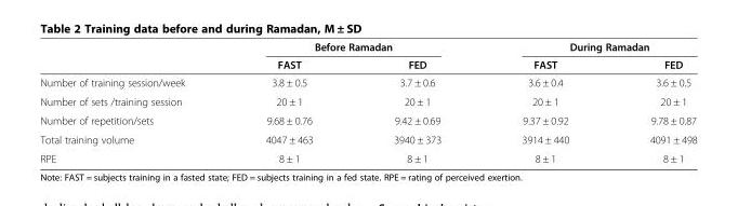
<table><thead><tr><td rowspan="2"></td><td colspan="2">Before Ramadan</td><td colspan="2">During Ramadan</td></tr><tr><td>FAST</td><td>FED</td><td>FAST</td><td>FED</td></tr></thead><tbody><tr><td>Number of training session/week</td><td>3.8 ± 0.5</td><td>3.7 ± 0.6</td><td>3.6 ± 0.4</td><td>3.6 ± 0.5</td></tr><tr><td>Number of sets /training session</td><td>20 ± 1</td><td>20 ± 1</td><td>20 ± 1</td><td>20 ± 1</td></tr><tr><td>Number of repetition/sets</td><td>9.68 ± 0.76</td><td>9.42 ± 0.69</td><td>9.37 ± 0.92</td><td>9.78 ± 0.87</td></tr><tr><td>Total training volume</td><td>4047 ± 463</td><td>3940 ± 373</td><td>3914 ± 440</td><td>4091 ± 498</td></tr><tr><td>RPE</td><td>8 ± 1</td><td>8 ± 1</td><td>8 ± 1</td><td>8 ± 1</td></tr></tbody></table>